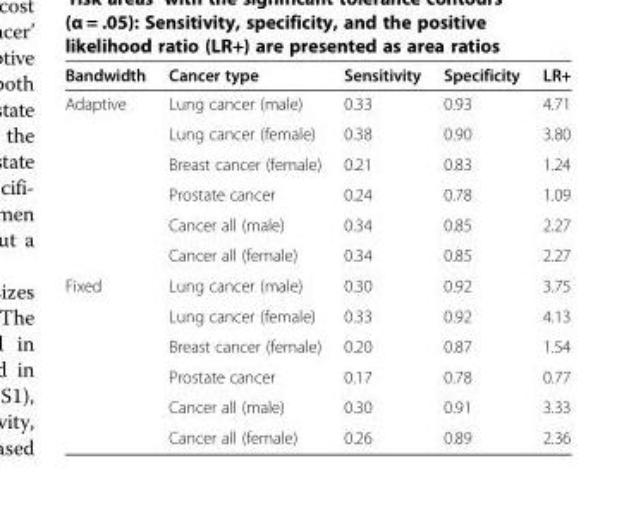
<table><thead><tr><td>Bandwidth</td><td>Cancer type</td><td>Sensitivity</td><td>Specificity</td><td>LR+</td></tr></thead><tbody><tr><td rowspan="6">Adaptive</td><td>Lung cancer (male)</td><td>0.33</td><td>0.93</td><td>4.71</td></tr><tr><td>Lung cancer (female)</td><td>0.38</td><td>0.90</td><td>3.80</td></tr><tr><td>Breast cancer (female)</td><td>0.21</td><td>0.83</td><td>1.24</td></tr><tr><td>Prostate cancer</td><td>0.24</td><td>0.78</td><td>1.09</td></tr><tr><td>Cancer all (male)</td><td>0.34</td><td>0.85</td><td>2.27</td></tr><tr><td>Cancer all (female)</td><td>0.34</td><td>0.85</td><td>2.27</td></tr><tr><td rowspan="6">Fixed</td><td>Lung cancer (male)</td><td>0.30</td><td>0.92</td><td>3.75</td></tr><tr><td>Lung cancer (female)</td><td>0.33</td><td>0.92</td><td>4.13</td></tr><tr><td>Breast cancer (female)</td><td>0.20</td><td>0.87</td><td>1.54</td></tr><tr><td>Prostate cancer</td><td>0.17</td><td>0.78</td><td>0.77</td></tr><tr><td>Cancer all (male)</td><td>0.30</td><td>0.91</td><td>3.33</td></tr><tr><td>Cancer all (female)</td><td>0.26</td><td>0.89</td><td>2.36</td></tr></tbody></table>